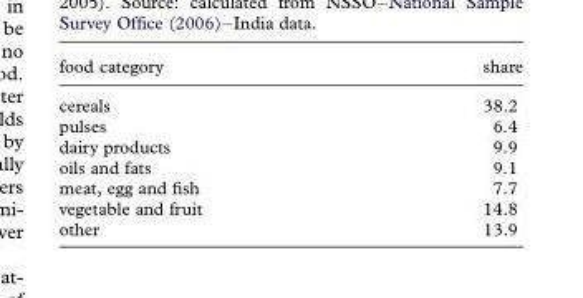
<table><thead><tr><td>food category</td><td>share</td></tr></thead><tbody><tr><td>cereals</td><td>38.2</td></tr><tr><td>pulses</td><td>6.4</td></tr><tr><td>dairy products</td><td>9.9</td></tr><tr><td>oils and fats</td><td>9.1</td></tr><tr><td>meat, egg and fish</td><td>7.7</td></tr><tr><td>vegetable and fruit</td><td>14.8</td></tr><tr><td>other</td><td>13.9</td></tr></tbody></table>